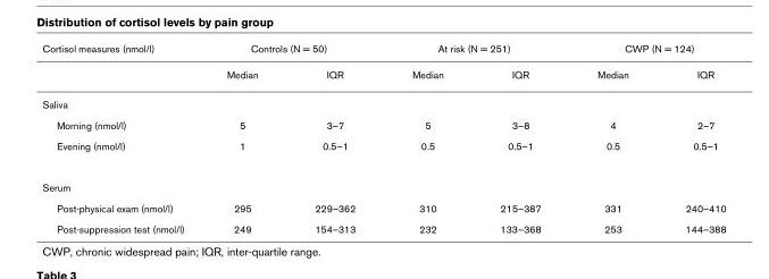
<table><thead><tr><td rowspan="2">Cortisol measures (nmol/l)</td><td colspan="2">Controls (N = 50)</td><td colspan="2">At risk (N = 251)</td><td colspan="2">CWP (N = 124)</td></tr><tr><td>Median</td><td>IQR</td><td>Median</td><td>IQR</td><td>Median</td><td>IQR</td></tr></thead><tbody><tr><td colspan="7">Saliva</td></tr><tr><td>Morning (nmol/l)</td><td>5</td><td>3–7</td><td>5</td><td>3–8</td><td>4</td><td>2–7</td></tr><tr><td>Evening (nmol/l)</td><td>1</td><td>0.5–1</td><td>0.5</td><td>0.5–1</td><td>0.5</td><td>0.5–1</td></tr><tr><td colspan="7">Serum</td></tr><tr><td>Post-physical exam (nmol/l)</td><td>295</td><td>229–362</td><td>310</td><td>215–387</td><td>331</td><td>240–410</td></tr><tr><td>Post-suppression test (nmol/l)</td><td>249</td><td>154–313</td><td>232</td><td>133–368</td><td>253</td><td>144–388</td></tr></tbody></table>